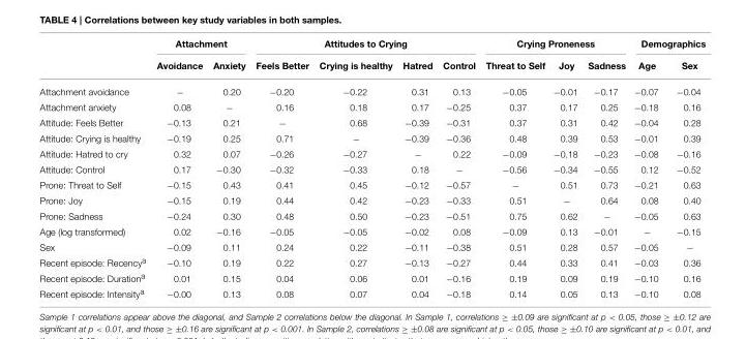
<table><thead><tr><td rowspan="2"></td><td colspan="2">Attachment</td><td colspan="4">Attitudes to Crying</td><td colspan="3">Crying Proneness</td><td colspan="2">Demographics</td></tr><tr><td>Avoidance</td><td>Anxiety</td><td>Feels Better</td><td>Crying is healthy</td><td>Hatred</td><td>Control</td><td>Threat to Self</td><td>Joy</td><td>Sadness</td><td>Age</td><td>Sex</td></tr></thead><tbody><tr><td>Attachment avoidance</td><td>−</td><td>0.20</td><td>−0.20</td><td>−0.22</td><td>0.31</td><td>0.13</td><td>−0.05</td><td>−0.01</td><td>−0.17</td><td>−0.07</td><td>−0.04</td></tr><tr><td>Attachment anxiety</td><td>0.08</td><td>−</td><td>0.16</td><td>0.18</td><td>0.17</td><td>−0.25</td><td>0.37</td><td>0.17</td><td>0.25</td><td>−0.18</td><td>0.16</td></tr><tr><td>Attitude: Feels Better</td><td>−0.13</td><td>0.21</td><td>−</td><td>0.68</td><td>−0.39</td><td>−0.31</td><td>0.37</td><td>0.31</td><td>0.42</td><td>−0.04</td><td>0.28</td></tr><tr><td>Attitude: Crying is healthy</td><td>−0.19</td><td>0.25</td><td>0.71</td><td>−</td><td>−0.39</td><td>−0.36</td><td>0.48</td><td>0.39</td><td>0.53</td><td>−0.01</td><td>0.39</td></tr><tr><td>Attitude: Hatred to cry</td><td>0.32</td><td>0.07</td><td>−0.26</td><td>−0.27</td><td>−</td><td>0.22</td><td>−0.09</td><td>−0.18</td><td>−0.23</td><td>−0.08</td><td>−0.16</td></tr><tr><td>Attitude: Control</td><td>0.17</td><td>−0.30</td><td>−0.32</td><td>−0.33</td><td>0.18</td><td>−</td><td>−0.56</td><td>−0.34</td><td>−0.55</td><td>0.12</td><td>−0.52</td></tr><tr><td>Prone: Threat to Self</td><td>−0.15</td><td>0.43</td><td>0.41</td><td>0.45</td><td>−0.12</td><td>−0.57</td><td>−</td><td>0.51</td><td>0.73</td><td>−0.21</td><td>0.63</td></tr><tr><td>Prone: Joy</td><td>−0.15</td><td>0.19</td><td>0.44</td><td>0.42</td><td>−0.23</td><td>−0.33</td><td>0.51</td><td>−</td><td>0.64</td><td>0.08</td><td>0.40</td></tr><tr><td>Prone: Sadness</td><td>−0.24</td><td>0.30</td><td>0.48</td><td>0.50</td><td>−0.23</td><td>−0.51</td><td>0.75</td><td>0.62</td><td>−</td><td>−0.05</td><td>0.63</td></tr><tr><td>Age (log transformed)</td><td>0.02</td><td>−0.16</td><td>−0.05</td><td>−0.05</td><td>−0.02</td><td>0.08</td><td>−0.09</td><td>0.13</td><td>−0.01</td><td>−</td><td>−0.15</td></tr><tr><td>Sex</td><td>−0.09</td><td>0.11</td><td>0.24</td><td>0.22</td><td>−0.11</td><td>−0.38</td><td>0.51</td><td>0.28</td><td>0.57</td><td>−0.05</td><td>−</td></tr><tr><td>Recent episode: Recency<sup>a</sup></td><td>−0.10</td><td>0.19</td><td>0.22</td><td>0.27</td><td>−0.13</td><td>−0.27</td><td>0.44</td><td>0.33</td><td>0.41</td><td>−0.03</td><td>0.36</td></tr><tr><td>Recent episode: Duration<sup>a</sup></td><td>0.01</td><td>0.15</td><td>0.04</td><td>0.06</td><td>0.01</td><td>−0.16</td><td>0.19</td><td>0.09</td><td>0.19</td><td>−0.10</td><td>0.16</td></tr><tr><td>Recent episode: Intensity<sup>a</sup></td><td>−0.00</td><td>0.13</td><td>0.08</td><td>0.07</td><td>0.04</td><td>−0.18</td><td>0.14</td><td>0.05</td><td>0.13</td><td>−0.10</td><td>0.08</td></tr></tbody></table>